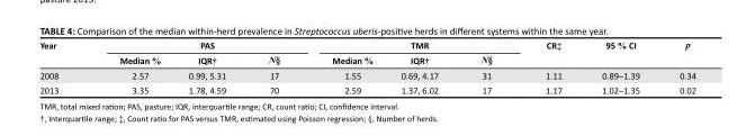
<table><thead><tr><td rowspan="2">Year</td><td colspan="3">PAS</td><td colspan="3">TMR</td><td rowspan="2">CR‡</td><td rowspan="2">95 % CI</td><td rowspan="2">p</td></tr><tr><td>Median %</td><td>IQR†</td><td>N§</td><td>Median %</td><td>IQR†</td><td>N§</td></tr></thead><tbody><tr><td>2008</td><td>2.57</td><td>0.99, 5.31</td><td>17</td><td>1.55</td><td>0.69, 4.17</td><td>31</td><td>1.11</td><td>0.89–1.39</td><td>0.34</td></tr><tr><td>2013</td><td>3.35</td><td>1.78, 4.59</td><td>70</td><td>2.59</td><td>1.37, 6.02</td><td>17</td><td>1.17</td><td>1.02–1.35</td><td>0.02</td></tr></tbody></table>